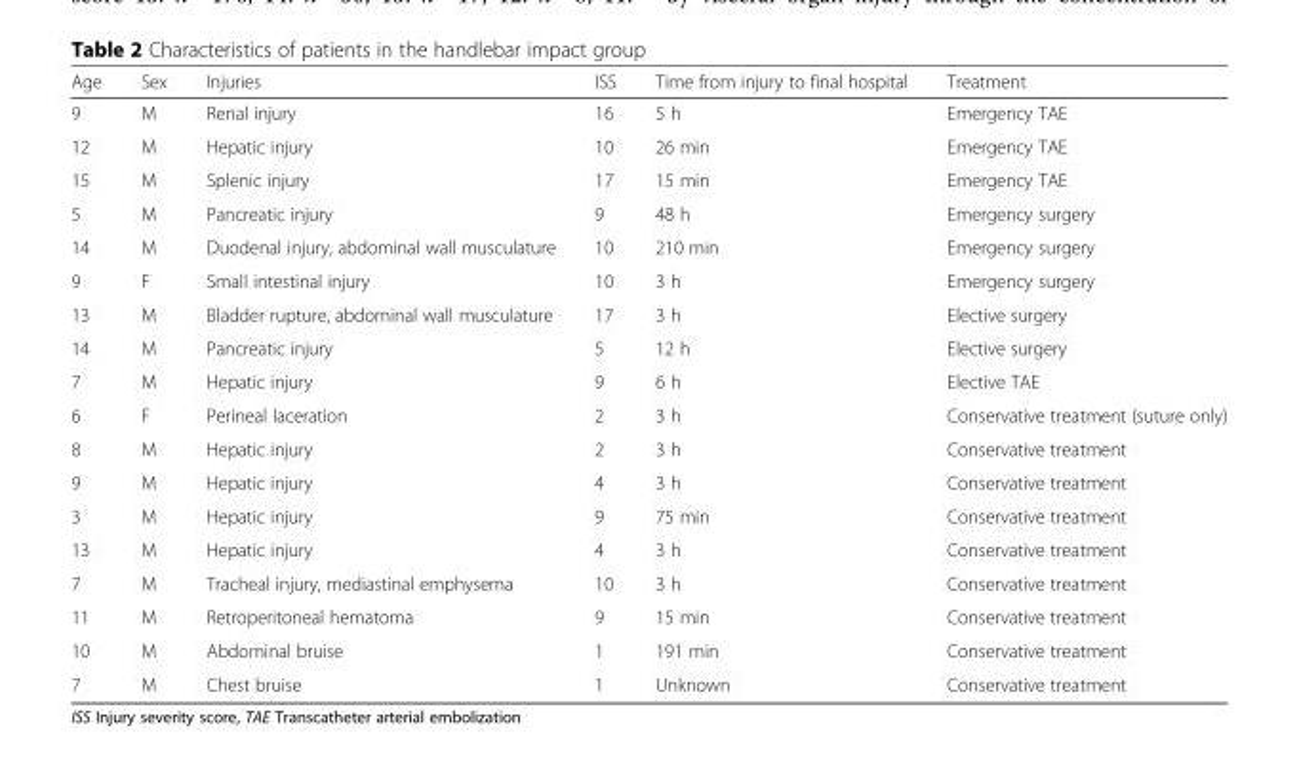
<table><thead><tr><td>Age</td><td>Sex</td><td>Injuries</td><td>ISS</td><td>Time from injury to final hospital</td><td>Treatment</td></tr></thead><tbody><tr><td>9</td><td>M</td><td>Renal injury</td><td>16</td><td>5 h</td><td>Emergency TAE</td></tr><tr><td>12</td><td>M</td><td>Hepatic injury</td><td>10</td><td>26 min</td><td>Emergency TAE</td></tr><tr><td>15</td><td>M</td><td>Splenic injury</td><td>17</td><td>15 min</td><td>Emergency TAE</td></tr><tr><td>5</td><td>M</td><td>Pancreatic injury</td><td>9</td><td>48 h</td><td>Emergency surgery</td></tr><tr><td>14</td><td>M</td><td>Duodenal injury, abdominal wall musculature</td><td>10</td><td>210 min</td><td>Emergency surgery</td></tr><tr><td>9</td><td>F</td><td>Small intestinal injury</td><td>10</td><td>3 h</td><td>Emergency surgery</td></tr><tr><td>13</td><td>M</td><td>Bladder rupture, abdominal wall musculature</td><td>17</td><td>3 h</td><td>Elective surgery</td></tr><tr><td>14</td><td>M</td><td>Pancreatic injury</td><td>5</td><td>12 h</td><td>Elective surgery</td></tr><tr><td>7</td><td>M</td><td>Hepatic injury</td><td>9</td><td>6 h</td><td>Elective TAE</td></tr><tr><td>6</td><td>F</td><td>Perineal laceration</td><td>2</td><td>3 h</td><td>Conservative treatment (suture only)</td></tr><tr><td>8</td><td>M</td><td>Hepatic injury</td><td>2</td><td>3 h</td><td>Conservative treatment</td></tr><tr><td>9</td><td>M</td><td>Hepatic injury</td><td>4</td><td>3 h</td><td>Conservative treatment</td></tr><tr><td>3</td><td>M</td><td>Hepatic injury</td><td>9</td><td>75 min</td><td>Conservative treatment</td></tr><tr><td>13</td><td>M</td><td>Hepatic injury</td><td>4</td><td>3 h</td><td>Conservative treatment</td></tr><tr><td>7</td><td>M</td><td>Tracheal injury, mediastinal emphysema</td><td>10</td><td>3 h</td><td>Conservative treatment</td></tr><tr><td>11</td><td>M</td><td>Retroperitoneal hematoma</td><td>9</td><td>15 min</td><td>Conservative treatment</td></tr><tr><td>10</td><td>M</td><td>Abdominal bruise</td><td>1</td><td>191 min</td><td>Conservative treatment</td></tr><tr><td>7</td><td>M</td><td>Chest bruise</td><td>1</td><td>Unknown</td><td>Conservative treatment</td></tr></tbody></table>